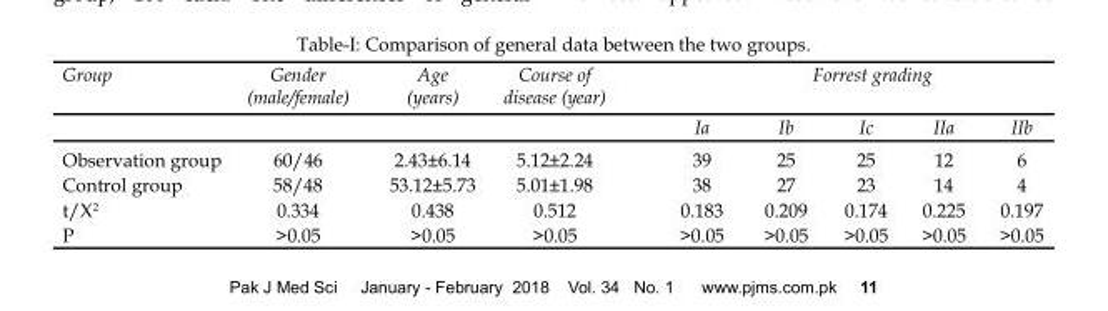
<table><thead><tr><td rowspan="2">Group</td><td rowspan="2">Gender (male/female)</td><td rowspan="2">Age (years)</td><td rowspan="2">Course of disease (year)</td><td colspan="5">Forrest grading</td></tr><tr><td>Ia</td><td>Ib</td><td>Ic</td><td>IIa</td><td>IIb</td></tr></thead><tbody><tr><td>Observation group</td><td>60/46</td><td>2.43±6.14</td><td>5.12±2.24</td><td>39</td><td>25</td><td>25</td><td>12</td><td>6</td></tr><tr><td>Control group</td><td>58/48</td><td>53.12±5.73</td><td>5.01±1.98</td><td>38</td><td>27</td><td>23</td><td>14</td><td>4</td></tr><tr><td>t/X<sup>2</sup></td><td>0.334</td><td>0.438</td><td>0.512</td><td>0.183</td><td>0.209</td><td>0.174</td><td>0.225</td><td>0.197</td></tr><tr><td>P</td><td>&gt;0.05</td><td>&gt;0.05</td><td>&gt;0.05</td><td>&gt;0.05</td><td>&gt;0.05</td><td>&gt;0.05</td><td>&gt;0.05</td><td>&gt;0.05</td></tr></tbody></table>